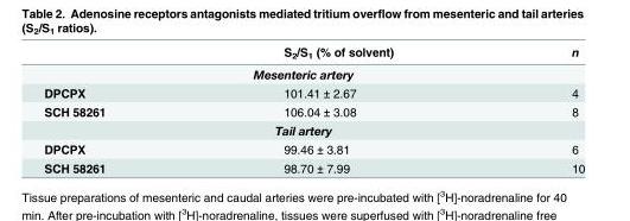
<table><thead><tr><td></td><td>S<sub>2</sub>/S<sub>1</sub> (% of solvent)</td><td>n</td></tr></thead><tbody><tr><td colspan="3">Mesenteric artery</td></tr><tr><td>DPCPX</td><td>101.41 ± 2.67</td><td>4</td></tr><tr><td>SCH 58261</td><td>106.04 ± 3.08</td><td>8</td></tr><tr><td colspan="3">Tail artery</td></tr><tr><td>DPCPX</td><td>99.46 ± 3.81</td><td>6</td></tr><tr><td>SCH 58261</td><td>98.70 ± 7.99</td><td>10</td></tr></tbody></table>